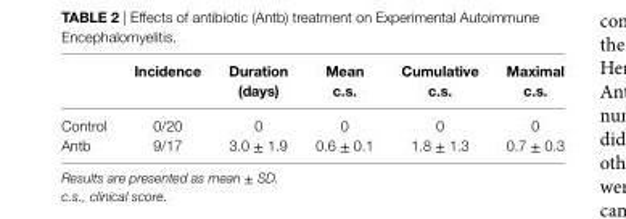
<table><thead><tr><td></td><td>incidence</td><td>Duration (days)</td><td>Mean c.s.</td><td>cumulative c.s.</td><td>Maximal c.s.</td></tr></thead><tbody><tr><td>Control</td><td>0/20</td><td>0</td><td>0</td><td>0</td><td>0</td></tr><tr><td>Antb</td><td>9/17</td><td>3.0 ± 1.9</td><td>0.6 ± 0.1</td><td>1.8 ± 1.3</td><td>0.7 ± 0.3</td></tr></tbody></table>